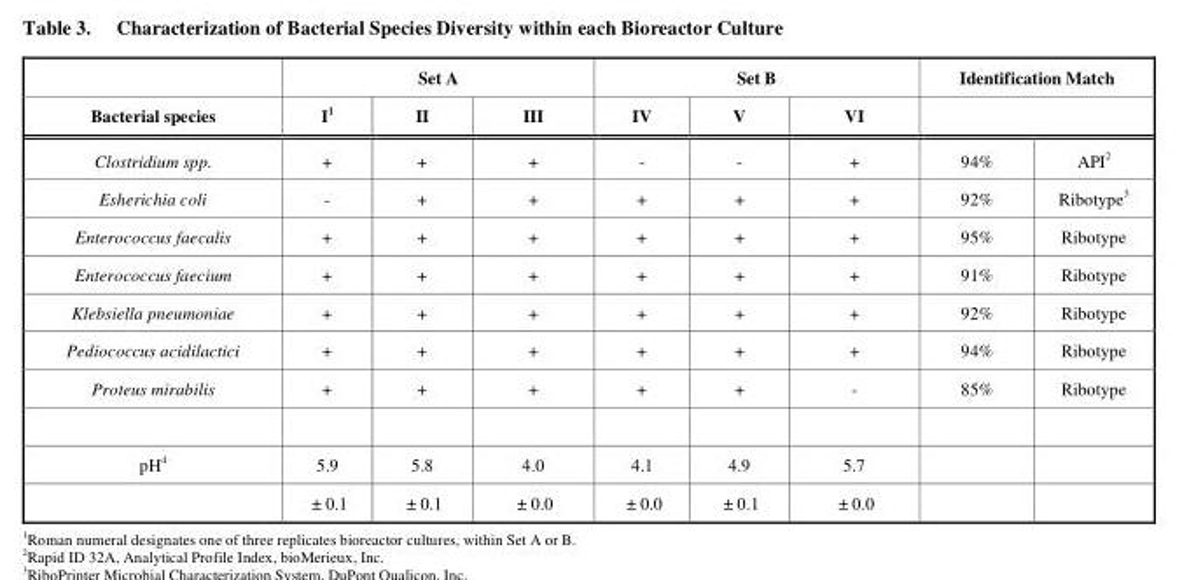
<table><thead><tr><td rowspan="2">Bacterial species</td><td colspan="3">Set A</td><td colspan="3">Set B</td><td colspan="2">Identification Match</td></tr><tr><td>I<sup>1</sup></td><td>II</td><td>III</td><td>IV</td><td>V</td><td>VI</td><td></td><td></td></tr></thead><tbody><tr><td>Clostridium spp.</td><td>+</td><td>+</td><td>+</td><td>-</td><td>-</td><td>+</td><td>94%</td><td>API<sup>2</sup></td></tr><tr><td>Esherichia coli</td><td>-</td><td>+</td><td>+</td><td>+</td><td>+</td><td>+</td><td>92%</td><td>Ribotype<sup>3</sup></td></tr><tr><td>Enterococcus faecalis</td><td>+</td><td>+</td><td>+</td><td>+</td><td>+</td><td>+</td><td>95%</td><td>Ribotype</td></tr><tr><td>Enterococcus faecium</td><td>+</td><td>+</td><td>+</td><td>+</td><td>+</td><td>+</td><td>91%</td><td>Ribotype</td></tr><tr><td>Klebsiella pneumoniae</td><td>+</td><td>+</td><td>+</td><td>+</td><td>+</td><td>+</td><td>92%</td><td>Ribotype</td></tr><tr><td>Pediococcus acidilactici</td><td>+</td><td>+</td><td>+</td><td>+</td><td>+</td><td>+</td><td>94%</td><td>Ribotype</td></tr><tr><td>Proteus mirabilis</td><td>+</td><td>+</td><td>+</td><td>+</td><td>+</td><td>-</td><td>85%</td><td>Ribotype</td></tr><tr><td rowspan="2">pH<sup>4</sup></td><td>5.9</td><td>5.8</td><td>4.0</td><td>4.1</td><td>4.9</td><td>5.7</td><td></td><td></td></tr><tr><td>± 0.1</td><td>± 0.1</td><td>± 0.0</td><td>± 0.0</td><td>± 0.1</td><td>± 0.0</td><td></td><td></td></tr></tbody></table>